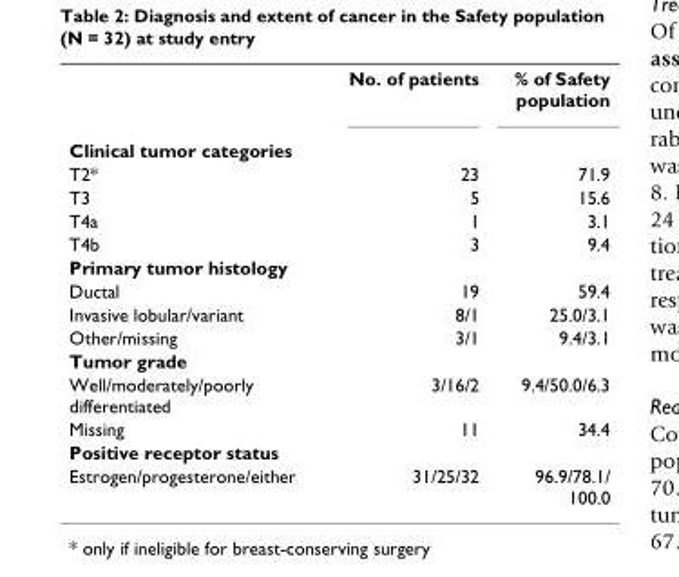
<table><thead><tr><td></td><td>No. of patients</td><td>% of Safety population</td></tr></thead><tbody><tr><td colspan="3">Clinical tumor categories</td></tr><tr><td>T2*</td><td>23</td><td>71.9</td></tr><tr><td>T3</td><td>5</td><td>15.6</td></tr><tr><td>T4a</td><td>1</td><td>3.1</td></tr><tr><td>T4b</td><td>3</td><td>9.4</td></tr><tr><td colspan="3">Primary tumor histology</td></tr><tr><td>Ductal</td><td>19</td><td>59.4</td></tr><tr><td>Invasive lobular/variant</td><td>8/1</td><td>25.0/3.1</td></tr><tr><td>Other/missing</td><td>3/1</td><td>9.4/3.1</td></tr><tr><td colspan="3">Tumor grade</td></tr><tr><td>Well/moderately/poorly differentiated</td><td>3/16/2</td><td>9.4/50.0/6.3</td></tr><tr><td>Missing</td><td>11</td><td>34.4</td></tr><tr><td colspan="3">Positive receptor status</td></tr><tr><td>Estrogen/progesterone/either</td><td>31/25/32</td><td>96.9/78.1/ 100.0</td></tr></tbody></table>